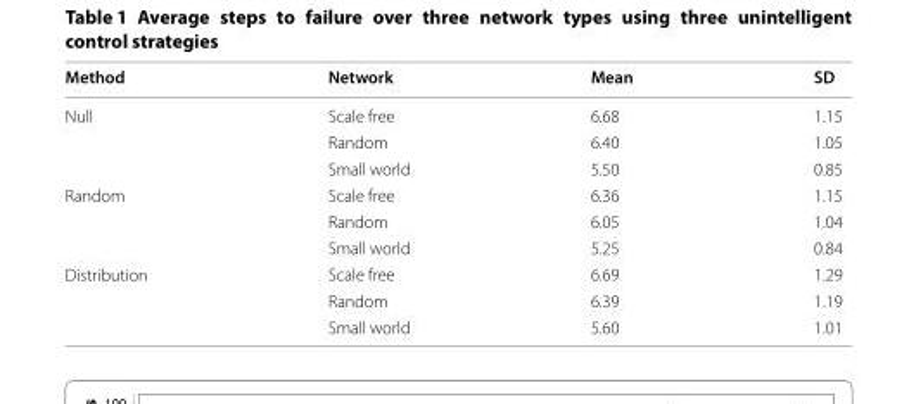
<table><thead><tr><td>Method</td><td>Network</td><td>Mean</td><td>SD</td></tr></thead><tbody><tr><td rowspan="3">Null</td><td>Scale free</td><td>6.68</td><td>1.15</td></tr><tr><td>Random</td><td>6.40</td><td>1.05</td></tr><tr><td>Small world</td><td>5.50</td><td>0.85</td></tr><tr><td rowspan="3">Random</td><td>Scale free</td><td>6.36</td><td>1.15</td></tr><tr><td>Random</td><td>6.05</td><td>1.04</td></tr><tr><td>Small world</td><td>5.25</td><td>0.84</td></tr><tr><td rowspan="3">Distribution</td><td>Scale free</td><td>6.69</td><td>1.29</td></tr><tr><td>Random</td><td>6.39</td><td>1.19</td></tr><tr><td>Small world</td><td>5.60</td><td>1.01</td></tr></tbody></table>